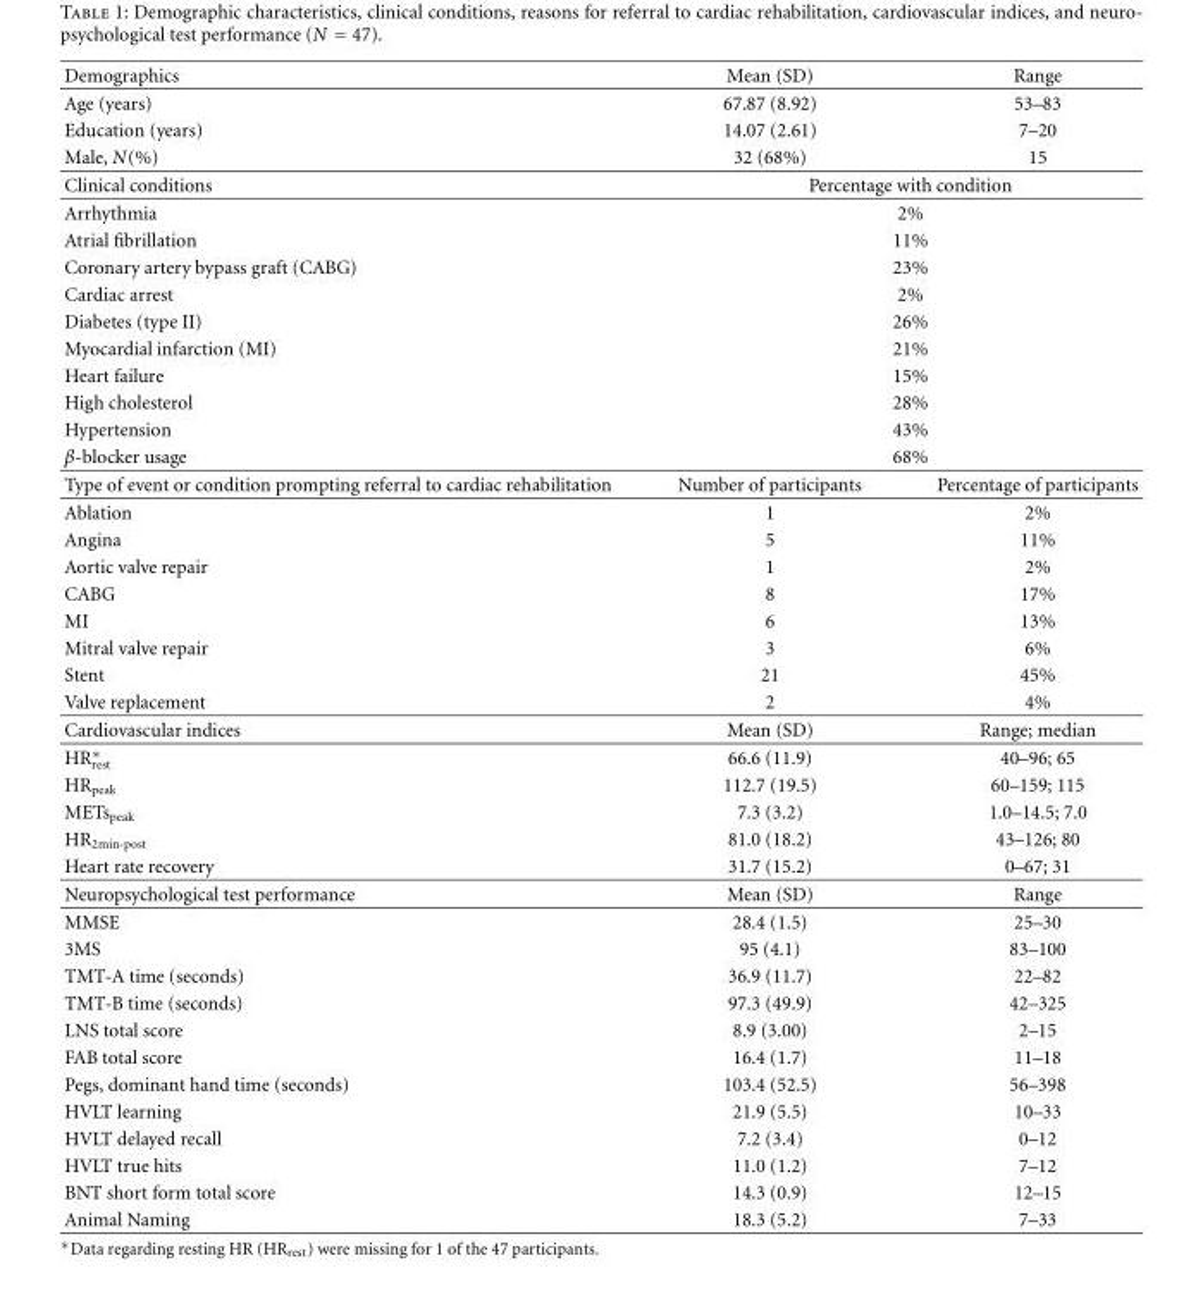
<table><thead><tr><td>Demographics</td><td>Mean (SD)</td><td>Range</td></tr></thead><tbody><tr><td>Age (years)</td><td>67.87 (8.92)</td><td>53–83</td></tr><tr><td>Education (years)</td><td>14.07 (2.61)</td><td>7–20</td></tr><tr><td>Male, N(%)</td><td>32 (68%)</td><td>15</td></tr><tr><td>Clinical conditions</td><td colspan="2">Percentage with condition</td></tr><tr><td>Arrhythmia</td><td colspan="2">2%</td></tr><tr><td>Atrial fibrillation</td><td colspan="2">11%</td></tr><tr><td>Coronary artery bypass graft (CABG)</td><td colspan="2">23%</td></tr><tr><td>Cardiac arrest</td><td colspan="2">2%</td></tr><tr><td>Diabetes (type II)</td><td colspan="2">26%</td></tr><tr><td>Myocardial infarction (MI)</td><td colspan="2">21%</td></tr><tr><td>Heart failure</td><td colspan="2">15%</td></tr><tr><td>High cholesterol</td><td colspan="2">28%</td></tr><tr><td>Hypertension</td><td colspan="2">43%</td></tr><tr><td>β-blocker usage</td><td colspan="2">68%</td></tr><tr><td>Type of event or condition prompting referral to cardiac rehabilitation</td><td>Number of participants</td><td>Percentage of participants</td></tr><tr><td>Ablation</td><td>1</td><td>2%</td></tr><tr><td>Angina</td><td>5</td><td>11%</td></tr><tr><td>Aortic valve repair</td><td>1</td><td>2%</td></tr><tr><td>CABG</td><td>8</td><td>17%</td></tr><tr><td>MI</td><td>6</td><td>13%</td></tr><tr><td>Mitral valve repair</td><td>3</td><td>6%</td></tr><tr><td>Stent</td><td>21</td><td>45%</td></tr><tr><td>Valve replacement</td><td>2</td><td>4%</td></tr><tr><td>Cardiovascular indices</td><td>Mean (SD)</td><td>Range; median</td></tr><tr><td>HR∗ rest</td><td>66.6 (11.9)</td><td>40–96; 65</td></tr><tr><td>HR<sub>peak</sub></td><td>112.7 (19.5)</td><td>60–159; 115</td></tr><tr><td>METs<sub>peak</sub></td><td>7.3 (3.2)</td><td>1.0–14.5; 7.0</td></tr><tr><td>HR<sub>2min-post</sub></td><td>81.0 (18.2)</td><td>43–126; 80</td></tr><tr><td>Heart rate recovery</td><td>31.7 (15.2)</td><td>0–67; 31</td></tr><tr><td>Neuropsychological test performance</td><td>Mean (SD)</td><td>Range</td></tr><tr><td>MMSE</td><td>28.4 (1.5)</td><td>25–30</td></tr><tr><td>3MS</td><td>95 (4.1)</td><td>83–100</td></tr><tr><td>TMT-A time (seconds)</td><td>36.9 (11.7)</td><td>22–82</td></tr><tr><td>TMT-B time (seconds)</td><td>97.3 (49.9)</td><td>42–325</td></tr><tr><td>LNS total score</td><td>8.9 (3.00)</td><td>2–15</td></tr><tr><td>FAB total score</td><td>16.4 (1.7)</td><td>11–18</td></tr><tr><td>Pegs, dominant hand time (seconds)</td><td>103.4 (52.5)</td><td>56–398</td></tr><tr><td>HVLT learning</td><td>21.9 (5.5)</td><td>10–33</td></tr><tr><td>HVLT delayed recall</td><td>7.2 (3.4)</td><td>0–12</td></tr><tr><td>HVLT true hits</td><td>11.0 (1.2)</td><td>7–12</td></tr><tr><td>BNT short form total score</td><td>14.3 (0.9)</td><td>12–15</td></tr><tr><td>Animal Naming</td><td>18.3 (5.2)</td><td>7–33</td></tr></tbody></table>